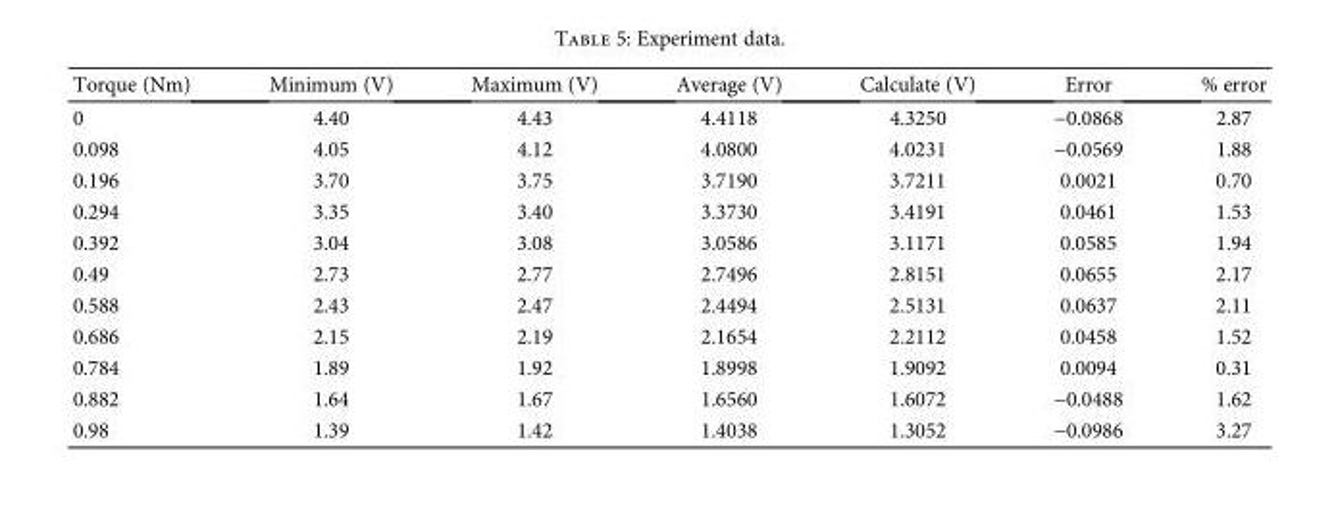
<table><thead><tr><td>Torque (Nm)</td><td>Minimum (V)</td><td>Maximum (V)</td><td>Average (V)</td><td>Calculate (V)</td><td>Error</td><td>% error</td></tr></thead><tbody><tr><td>0</td><td>4.40</td><td>4.43</td><td>4.4118</td><td>4.3250</td><td>−0.0868</td><td>2.87</td></tr><tr><td>0.098</td><td>4.05</td><td>4.12</td><td>4.0800</td><td>4.0231</td><td>−0.0569</td><td>1.88</td></tr><tr><td>0.196</td><td>3.70</td><td>3.75</td><td>3.7190</td><td>3.7211</td><td>0.0021</td><td>0.70</td></tr><tr><td>0.294</td><td>3.35</td><td>3.40</td><td>3.3730</td><td>3.4191</td><td>0.0461</td><td>1.53</td></tr><tr><td>0.392</td><td>3.04</td><td>3.08</td><td>3.0586</td><td>3.1171</td><td>0.0585</td><td>1.94</td></tr><tr><td>0.49</td><td>2.73</td><td>2.77</td><td>2.7496</td><td>2.8151</td><td>0.0655</td><td>2.17</td></tr><tr><td>0.588</td><td>2.43</td><td>2.47</td><td>2.4494</td><td>2.5131</td><td>0.0637</td><td>2.11</td></tr><tr><td>0.686</td><td>2.15</td><td>2.19</td><td>2.1654</td><td>2.2112</td><td>0.0458</td><td>1.52</td></tr><tr><td>0.784</td><td>1.89</td><td>1.92</td><td>1.8998</td><td>1.9092</td><td>0.0094</td><td>0.31</td></tr><tr><td>0.882</td><td>1.64</td><td>1.67</td><td>1.6560</td><td>1.6072</td><td>−0.0488</td><td>1.62</td></tr><tr><td>0.98</td><td>1.39</td><td>1.42</td><td>1.4038</td><td>1.3052</td><td>−0.0986</td><td>3.27</td></tr></tbody></table>